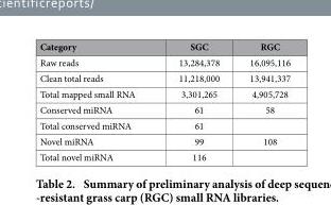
<table><thead><tr><td>Category</td><td>SGC</td><td>RGC</td></tr></thead><tbody><tr><td>Raw reads</td><td>13,284,378</td><td>16,095,116</td></tr><tr><td>Clean total reads</td><td>11,218,000</td><td>13,941,337</td></tr><tr><td>Total mapped small RNA</td><td>3,301,265</td><td>4,905,728</td></tr><tr><td>Conserved miRNA</td><td>61</td><td>58</td></tr><tr><td>Total conserved miRNA</td><td>61</td><td></td></tr><tr><td>Novel miRNA</td><td>99</td><td>108</td></tr><tr><td>Total novel miRNA</td><td>116</td><td></td></tr></tbody></table>